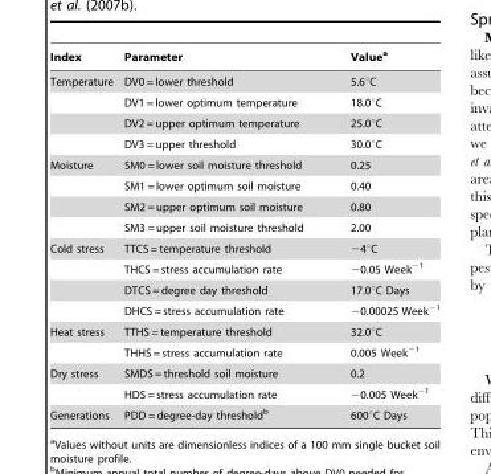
<table><thead><tr><td>Index</td><td>Parameter</td><td>Value<sup>a</sup></td></tr></thead><tbody><tr><td rowspan="4">Temperature</td><td>DV0 = lower threshold</td><td>5.6°C</td></tr><tr><td>DV1 = lower optimum temperature</td><td>18.0°C</td></tr><tr><td>DV2 = upper optimum temperature</td><td>25.0°C</td></tr><tr><td>DV3 = upper threshold</td><td>30.0°C</td></tr><tr><td rowspan="4">Moisture</td><td>SM0 = lower soil moisture threshold</td><td>0.25</td></tr><tr><td>SM1 = lower optimum soil moisture</td><td>0.40</td></tr><tr><td>SM2 = upper optimum soil moisture</td><td>0.80</td></tr><tr><td>SM3 = upper soil moisture threshold</td><td>2.00</td></tr><tr><td rowspan="4">Cold stress</td><td>TTCS = temperature threshold</td><td>−4°C</td></tr><tr><td>THCS = stress accumulation rate</td><td>−0.05 Week<sup>−1</sup></td></tr><tr><td>DTCS = degree day threshold</td><td>17.0°C Days</td></tr><tr><td>DHCS = stress accumulation rate</td><td>−0.00025 Week<sup>−1</sup></td></tr><tr><td rowspan="2">Heat stress</td><td>TTHS = temperature threshold</td><td>32.0°C</td></tr><tr><td>THHS = stress accumulation rate</td><td>0.005 Week<sup>−1</sup></td></tr><tr><td rowspan="2">Dry stress</td><td>SMDS = threshold soil moisture</td><td>0.2</td></tr><tr><td>HDS = stress accumulation rate</td><td>−0.005 Week<sup>−1</sup></td></tr><tr><td>Generations</td><td>PDD = degree-day threshold<sup>b</sup></td><td>600°C Days</td></tr></tbody></table>